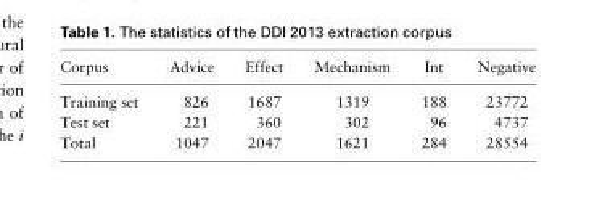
<table><thead><tr><td>Corpus</td><td>Advice</td><td>Effect</td><td>Mechanism</td><td>Int</td><td>Negative</td></tr></thead><tbody><tr><td>Training set</td><td>826</td><td>1687</td><td>1319</td><td>188</td><td>23772</td></tr><tr><td>Test set</td><td>221</td><td>360</td><td>302</td><td>96</td><td>4737</td></tr><tr><td>Total</td><td>1047</td><td>2047</td><td>1621</td><td>284</td><td>28554</td></tr></tbody></table>